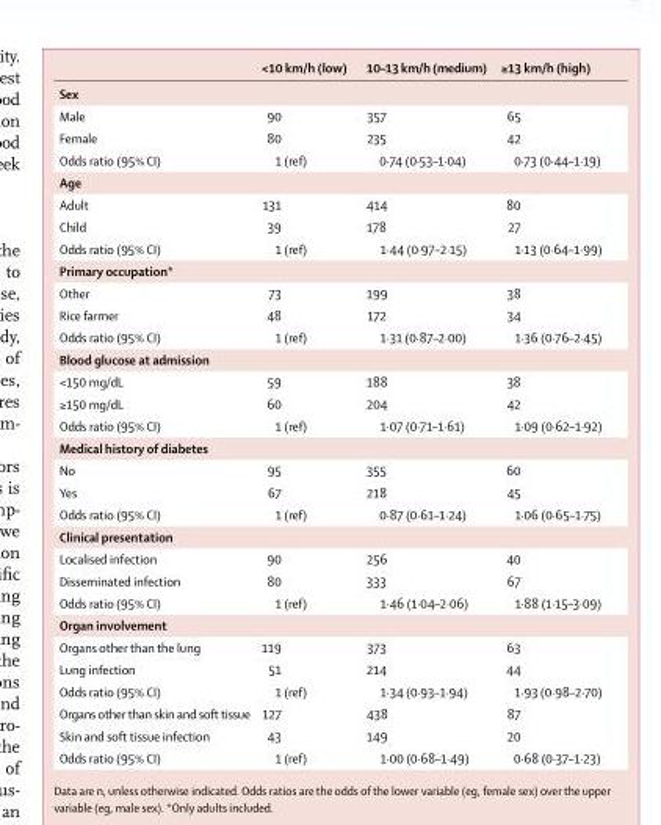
<table><thead><tr><td></td><td>&lt;10 km/h (low)</td><td>10–13 km/h (medium)</td><td>≥13 km/h (high)</td></tr></thead><tbody><tr><td colspan="4">Sex</td></tr><tr><td>Male</td><td>90</td><td>357</td><td>65</td></tr><tr><td>Female</td><td>80</td><td>235</td><td>42</td></tr><tr><td>Odds ratio (95% CI)</td><td>1 (ref)</td><td>0·74 (0·53–1·04)</td><td>0·73 (0·44–1·19)</td></tr><tr><td colspan="4">Age</td></tr><tr><td>Adult</td><td>131</td><td>414</td><td>80</td></tr><tr><td>Child</td><td>39</td><td>178</td><td>27</td></tr><tr><td>Odds ratio (95% CI)</td><td>1 (ref)</td><td>1·44 (0·97–2·15)</td><td>1·13 (0·64–1·99)</td></tr><tr><td colspan="4">Primary occupation*</td></tr><tr><td>Other</td><td>73</td><td>199</td><td>38</td></tr><tr><td>Rice farmer</td><td>48</td><td>172</td><td>34</td></tr><tr><td>Odds ratio (95% CI)</td><td>1 (ref)</td><td>1·31 (0·87–2·00)</td><td>1·36 (0·76–2·45)</td></tr><tr><td colspan="4">Blood glucose at admission</td></tr><tr><td>&lt;150 mg/dL</td><td>59</td><td>188</td><td>38</td></tr><tr><td>≥150 mg/dL</td><td>60</td><td>204</td><td>42</td></tr><tr><td>Odds ratio (95% CI)</td><td>1 (ref)</td><td>1·07 (0·71–1·61)</td><td>1·09 (0·62–1·92)</td></tr><tr><td colspan="4">Medical history of diabetes</td></tr><tr><td>No</td><td>95</td><td>355</td><td>60</td></tr><tr><td>Yes</td><td>67</td><td>218</td><td>45</td></tr><tr><td>Odds ratio (95% CI)</td><td>1 (ref)</td><td>0·87 (0·61–1·24)</td><td>1·06 (0·65–1·75)</td></tr><tr><td colspan="4">Clinical presentation</td></tr><tr><td>Localised infection</td><td>90</td><td>256</td><td>40</td></tr><tr><td>Disseminated infection</td><td>80</td><td>333</td><td>67</td></tr><tr><td>Odds ratio (95% CI)</td><td>1 (ref)</td><td>1·46 (1·04–2·06)</td><td>1·88 (1·15–3·09)</td></tr><tr><td colspan="4">Organ involvement</td></tr><tr><td>Organs other than the lung</td><td>119</td><td>373</td><td>63</td></tr><tr><td>Lung infection</td><td>51</td><td>214</td><td>44</td></tr><tr><td>Odds ratio (95% CI)</td><td>1 (ref)</td><td>1·34 (0·93–1·94)</td><td>1·93 (0·98–2·70)</td></tr><tr><td>Organs other than skin and soft tissue</td><td>127</td><td>438</td><td>87</td></tr><tr><td>Skin and soft tissue infection</td><td>43</td><td>149</td><td>20</td></tr><tr><td>Odds ratio (95% CI)</td><td>1 (ref)</td><td>1·00 (0·68–1·49)</td><td>0·68 (0·37–1·23)</td></tr></tbody></table>